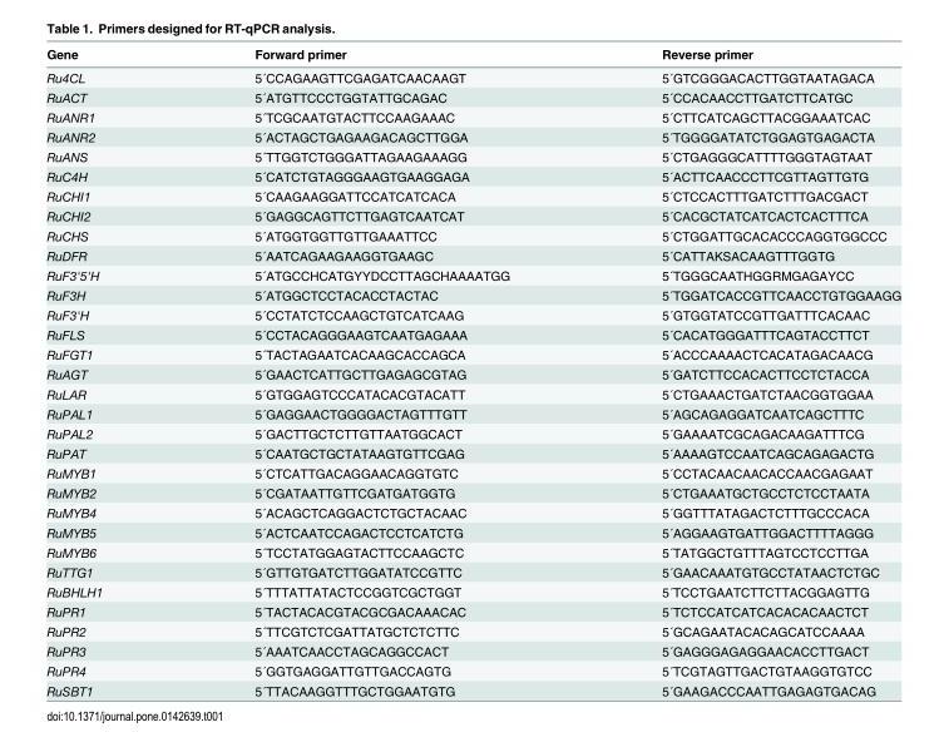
<table><thead><tr><td>Gene</td><td>Forward primer</td><td>Reverse primer</td></tr></thead><tbody><tr><td>Ru4CL</td><td>5´CCAGAAGTTCGAGATCAACAAGT</td><td>5´GTCGGGACACTTGGTAATAGACA</td></tr><tr><td>RuACT</td><td>5´ATGTTCCCTGGTATTGCAGAC</td><td>5´CCACAACCTTGATCTTCATGC</td></tr><tr><td>RuANR1</td><td>5´TCGCAATGTACTTCCAAGAAAC</td><td>5´CTTCATCAGCTTACGGAAATCAC</td></tr><tr><td>RuANR2</td><td>5´ACTAGCTGAGAAGACAGCTTGGA</td><td>5´TGGGGATATCTGGAGTGAGACTA</td></tr><tr><td>RuANS</td><td>5´TTGGTCTGGGATTAGAAGAAAGG</td><td>5´CTGAGGGCATTTTGGGTAGTAAT</td></tr><tr><td>RuC4H</td><td>5´CATCTGTAGGGAAGTGAAGGAGA</td><td>5´ACTTCAACCCTTCGTTAGTTGTG</td></tr><tr><td>RuCHI1</td><td>5´CAAGAAGGATTCCATCATCACA</td><td>5´CTCCACTTTGATCTTTGACGACT</td></tr><tr><td>RuCHI2</td><td>5´GAGGCAGTTCTTGAGTCAATCAT</td><td>5´CACGCTATCATCACTCACTTTCA</td></tr><tr><td>RuCHS</td><td>5´ATGGTGGTTGTTGAAATTCC</td><td>5´CTGGATTGCACACCCAGGTGGCCC</td></tr><tr><td>RuDFR</td><td>5´AATCAGAAGAAGGTGAAGC</td><td>5´CATTAKSACAAGTTTGGTG</td></tr><tr><td>RuF3&#x27;5&#x27;H</td><td>5´ATGCCHCATGYYDCCTTAGCHAAAATGG</td><td>5´TGGGCAATHGGRMGAGAYCC</td></tr><tr><td>RuF3H</td><td>5´ATGGCTCCTACACCTACTAC</td><td>5´TGGATCACCGTTCAACCTGTGGAAGG</td></tr><tr><td>RuF3&#x27;H</td><td>5´CCTATCTCCAAGCTGTCATCAAG</td><td>5´GTGGTATCCGTTGATTTCACAAC</td></tr><tr><td>RuFLS</td><td>5´CCTACAGGGAAGTCAATGAGAAA</td><td>5´CACATGGGATTTCAGTACCTTCT</td></tr><tr><td>RuFGT1</td><td>5´TACTAGAATCACAAGCACCAGCA</td><td>5´ACCCAAAACTCACATAGACAACG</td></tr><tr><td>RuAGT</td><td>5´GAACTCATTGCTTGAGAGCGTAG</td><td>5´GATCTTCCACACTTCCTCTACCA</td></tr><tr><td>RuLAR</td><td>5´GTGGAGTCCCATACACGTACATT</td><td>5´CTGAAACTGATCTAACGGTGGAA</td></tr><tr><td>RuPAL1</td><td>5´GAGGAACTGGGGACTAGTTTGTT</td><td>5´AGCAGAGGATCAATCAGCTTTC</td></tr><tr><td>RuPAL2</td><td>5´GACTTGCTCTTGTTAATGGCACT</td><td>5´GAAAATCGCAGACAAGATTTCG</td></tr><tr><td>RuPAT</td><td>5´CAATGCTGCTATAAGTGTTCGAG</td><td>5´AAAAGTCCAATCAGCAGAGACTG</td></tr><tr><td>RuMYB1</td><td>5´CTCATTGACAGGAACAGGTGTC</td><td>5´CCTACAACAACACCAACGAGAAT</td></tr><tr><td>RuMYB2</td><td>5´CGATAATTGTTCGATGATGGTG</td><td>5´CTGAAATGCTGCCTCTCCTAATA</td></tr><tr><td>RuMYB4</td><td>5´ACAGCTCAGGACTCTGCTACAAC</td><td>5´GGTTTATAGACTCTTTGCCCACA</td></tr><tr><td>RuMYB5</td><td>5´ACTCAATCCAGACTCCTCATCTG</td><td>5´AGGAAGTGATTGGACTTTTAGGG</td></tr><tr><td>RuMYB6</td><td>5´TCCTATGGAGTACTTCCAAGCTC</td><td>5´TATGGCTGTTTAGTCCTCCTTGA</td></tr><tr><td>RuTTG1</td><td>5´GTTGTGATCTTGGATATCCGTTC</td><td>5´GAACAAATGTGCCTATAACTCTGC</td></tr><tr><td>RuBHLH1</td><td>5´TTTATTATACTCCGGTCGCTGGT</td><td>5´TCCTGAATCTTCTTACGGAGTTG</td></tr><tr><td>RuPR1</td><td>5´TACTACACGTACGCGACAAACAC</td><td>5´TCTCCATCATCACACACAACTCT</td></tr><tr><td>RuPR2</td><td>5´TTCGTCTCGATTATGCTCTCTTC</td><td>5´GCAGAATACACAGCATCCAAAA</td></tr><tr><td>RuPR3</td><td>5´AAATCAACCTAGCAGGCCACT</td><td>5´GAGGGAGAGGAACACCTTGACT</td></tr><tr><td>RuPR4</td><td>5´GGTGAGGATTGTTGACCAGTG</td><td>5´TCGTAGTTGACTGTAAGGTGTCC</td></tr><tr><td>RuSBT1</td><td>5´TTACAAGGTTTGCTGGAATGTG</td><td>5´GAAGACCCAATTGAGAGTGACAG</td></tr></tbody></table>